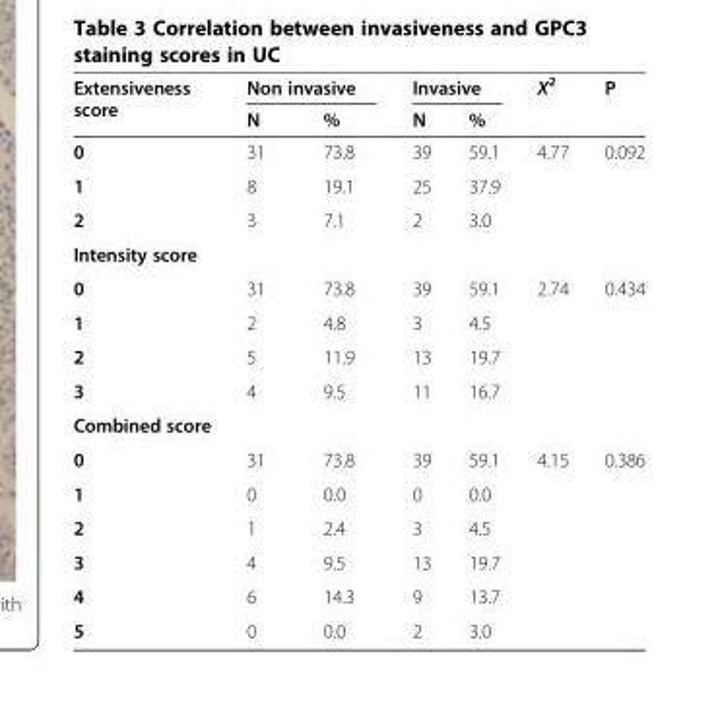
<table><thead><tr><td rowspan="2">Extensiveness score</td><td colspan="2">Non invasive</td><td colspan="2">Invasive</td><td rowspan="2">X<sup>2</sup></td><td rowspan="2">P</td></tr><tr><td>N</td><td>%</td><td>N</td><td>%</td></tr></thead><tbody><tr><td>0</td><td>31</td><td>73.8</td><td>39</td><td>59.1</td><td rowspan="3">4.77</td><td rowspan="3">0.092</td></tr><tr><td>1</td><td>8</td><td>19.1</td><td>25</td><td>37.9</td></tr><tr><td>2</td><td>3</td><td>7.1</td><td>2</td><td>3.0</td></tr><tr><td colspan="7">Intensity score</td></tr><tr><td>0</td><td>31</td><td>73.8</td><td>39</td><td>59.1</td><td rowspan="4">2.74</td><td rowspan="4">0.434</td></tr><tr><td>1</td><td>2</td><td>4.8</td><td>3</td><td>4.5</td></tr><tr><td>2</td><td>5</td><td>11.9</td><td>13</td><td>19.7</td></tr><tr><td>3</td><td>4</td><td>9.5</td><td>11</td><td>16.7</td></tr><tr><td colspan="7">Combined score</td></tr><tr><td>0</td><td>31</td><td>73.8</td><td>39</td><td>59.1</td><td rowspan="6">4.15</td><td rowspan="6">0.386</td></tr><tr><td>1</td><td>0</td><td>0.0</td><td>0</td><td>0.0</td></tr><tr><td>2</td><td>1</td><td>2.4</td><td>3</td><td>4.5</td></tr><tr><td>3</td><td>4</td><td>9.5</td><td>13</td><td>19.7</td></tr><tr><td>4</td><td>6</td><td>14.3</td><td>9</td><td>13.7</td></tr><tr><td>5</td><td>0</td><td>0.0</td><td>2</td><td>3.0</td></tr></tbody></table>